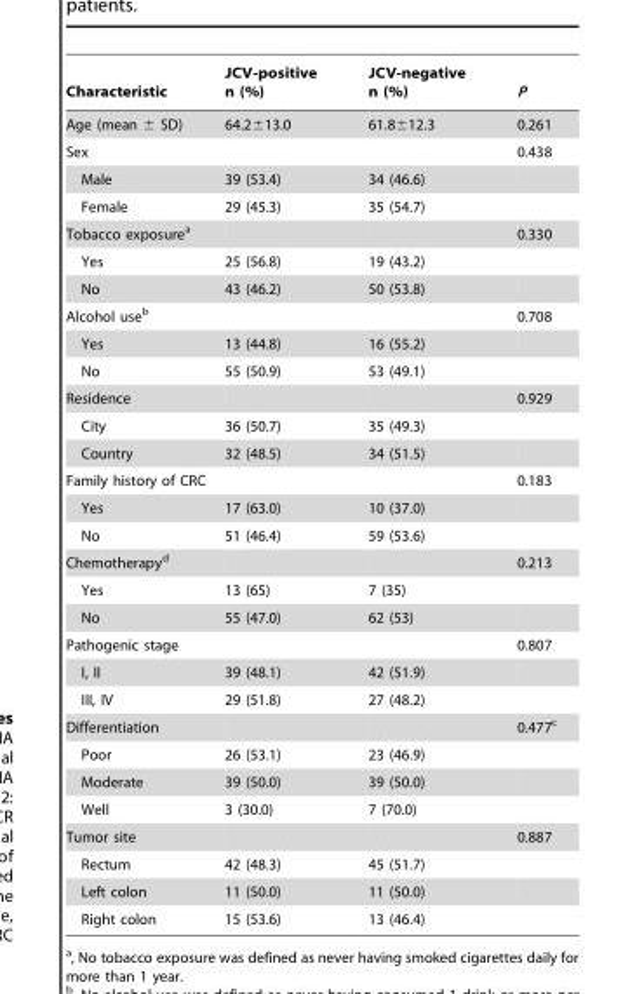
<table><thead><tr><td>Characteristic</td><td>JCV-positive n (%)</td><td>JCV-negative n (%)</td><td>P</td></tr></thead><tbody><tr><td>Age (mean ± SD)</td><td>64.2±13.0</td><td>61.8±12.3</td><td>0.261</td></tr><tr><td>Sex</td><td></td><td></td><td>0.438</td></tr><tr><td>Male</td><td>39 (53.4)</td><td>34 (46.6)</td><td></td></tr><tr><td>Female</td><td>29 (45.3)</td><td>35 (54.7)</td><td></td></tr><tr><td>Tobacco exposure<sup>a</sup></td><td></td><td></td><td>0.330</td></tr><tr><td>Yes</td><td>25 (56.8)</td><td>19 (43.2)</td><td></td></tr><tr><td>No</td><td>43 (46.2)</td><td>50 (53.8)</td><td></td></tr><tr><td>Alcohol use<sup>b</sup></td><td></td><td></td><td>0.708</td></tr><tr><td>Yes</td><td>13 (44.8)</td><td>16 (55.2)</td><td></td></tr><tr><td>No</td><td>55 (50.9)</td><td>53 (49.1)</td><td></td></tr><tr><td>Residence</td><td></td><td></td><td>0.929</td></tr><tr><td>City</td><td>36 (50.7)</td><td>35 (49.3)</td><td></td></tr><tr><td>Country</td><td>32 (48.5)</td><td>34 (51.5)</td><td></td></tr><tr><td>Family history of CRC</td><td></td><td></td><td>0.183</td></tr><tr><td>Yes</td><td>17 (63.0)</td><td>10 (37.0)</td><td></td></tr><tr><td>No</td><td>51 (46.4)</td><td>59 (53.6)</td><td></td></tr><tr><td>Chemotherapy<sup>d</sup></td><td></td><td></td><td>0.213</td></tr><tr><td>Yes</td><td>13 (65)</td><td>7 (35)</td><td></td></tr><tr><td>No</td><td>55 (47.0)</td><td>62 (53)</td><td></td></tr><tr><td>Pathogenic stage</td><td></td><td></td><td>0.807</td></tr><tr><td>I, II</td><td>39 (48.1)</td><td>42 (51.9)</td><td></td></tr><tr><td>III, IV</td><td>29 (51.8)</td><td>27 (48.2)</td><td></td></tr><tr><td>Differentiation</td><td></td><td></td><td>0.477<sup>c</sup></td></tr><tr><td>Poor</td><td>26 (53.1)</td><td>23 (46.9)</td><td></td></tr><tr><td>Moderate</td><td>39 (50.0)</td><td>39 (50.0)</td><td></td></tr><tr><td>Well</td><td>3 (30.0)</td><td>7 (70.0)</td><td></td></tr><tr><td>Tumor site</td><td></td><td></td><td>0.887</td></tr><tr><td>Rectum</td><td>42 (48.3)</td><td>45 (51.7)</td><td></td></tr><tr><td>Left colon</td><td>11 (50.0)</td><td>11 (50.0)</td><td></td></tr><tr><td>Right colon</td><td>15 (53.6)</td><td>13 (46.4)</td><td></td></tr></tbody></table>